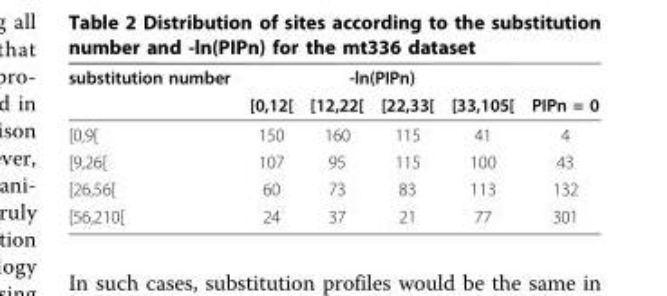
<table><thead><tr><td rowspan="2">substitution number</td><td colspan="4">-ln(PIPn)</td><td rowspan="2">PIPn = 0</td></tr><tr><td>[0,12[</td><td>[12,22[</td><td>[22,33[</td><td>[33,105[</td></tr></thead><tbody><tr><td>[0,9[</td><td>150</td><td>160</td><td>115</td><td>41</td><td>4</td></tr><tr><td>[9,26[</td><td>107</td><td>95</td><td>115</td><td>100</td><td>43</td></tr><tr><td>[26,56[</td><td>60</td><td>73</td><td>83</td><td>113</td><td>132</td></tr><tr><td>[56,210[</td><td>24</td><td>37</td><td>21</td><td>77</td><td>301</td></tr></tbody></table>